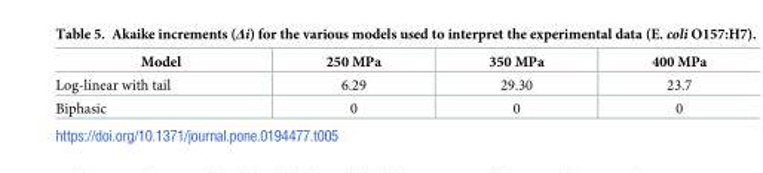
<table><thead><tr><td>Model</td><td>250 MPa</td><td>350 MPa</td><td>400 MPa</td></tr></thead><tbody><tr><td>Log-linear with tail</td><td>6.29</td><td>29.30</td><td>23.7</td></tr><tr><td>Biphasic</td><td>0</td><td>0</td><td>0</td></tr></tbody></table>